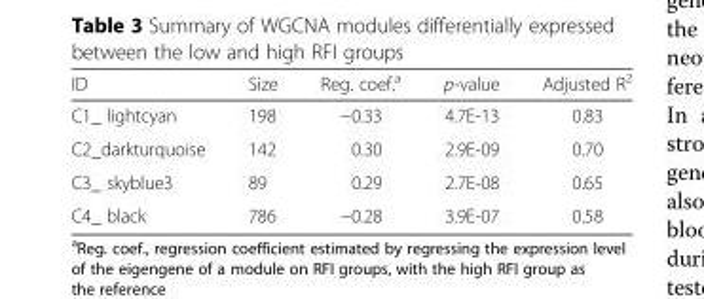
<table><thead><tr><td>ID</td><td>Size</td><td>Reg. coef.<sup>a</sup></td><td>p-value</td><td>Adjusted R<sup>2</sup></td></tr></thead><tbody><tr><td>C1_ lightcyan</td><td>198</td><td>−0.33</td><td>4.7E-13</td><td>0.83</td></tr><tr><td>C2_darkturquoise</td><td>142</td><td>0.30</td><td>2.9E-09</td><td>0.70</td></tr><tr><td>C3_ skyblue3</td><td>89</td><td>0.29</td><td>2.7E-08</td><td>0.65</td></tr><tr><td>C4_ black</td><td>786</td><td>−0.28</td><td>3.9E-07</td><td>0.58</td></tr></tbody></table>